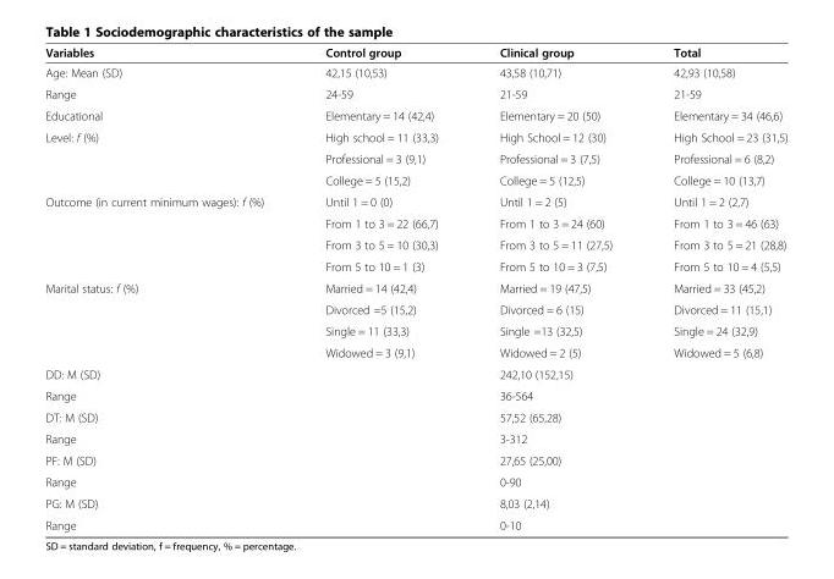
<table><thead><tr><td>Variables</td><td>Control group</td><td>Clinical group</td><td>Total</td></tr></thead><tbody><tr><td>Age: Mean (SD)</td><td>42,15 (10,53)</td><td>43,58 (10,71)</td><td>42,93 (10,58)</td></tr><tr><td>Range</td><td>24-59</td><td>21-59</td><td>21-59</td></tr><tr><td>Educational</td><td>Elementary = 14 (42,4)</td><td>Elementary = 20 (50)</td><td>Elementary = 34 (46,6)</td></tr><tr><td rowspan="3">Level: f (%)</td><td>High school = 11 (33,3)</td><td>High School = 12 (30)</td><td>High School = 23 (31,5)</td></tr><tr><td>Professional = 3 (9,1)</td><td>Professional = 3 (7,5)</td><td>Professional = 6 (8,2)</td></tr><tr><td>College = 5 (15,2)</td><td>College = 5 (12,5)</td><td>College = 10 (13,7)</td></tr><tr><td rowspan="4">Outcome (in current minimum wages): f (%)</td><td>Until 1 = 0 (0)</td><td>Until 1 = 2 (5)</td><td>Until 1 = 2 (2,7)</td></tr><tr><td>From 1 to 3 = 22 (66,7)</td><td>From 1 to 3 = 24 (60)</td><td>From 1 to 3 = 46 (63)</td></tr><tr><td>From 3 to 5 = 10 (30,3)</td><td>From 3 to 5 = 11 (27,5)</td><td>From 3 to 5 = 21 (28,8)</td></tr><tr><td>From 5 to 10 = 1 (3)</td><td>From 5 to 10 = 3 (7,5)</td><td>From 5 to 10 = 4 (5,5)</td></tr><tr><td rowspan="4">Marital status: f (%)</td><td>Married = 14 (42,4)</td><td>Married = 19 (47,5)</td><td>Married = 33 (45,2)</td></tr><tr><td>Divorced =5 (15,2)</td><td>Divorced = 6 (15)</td><td>Divorced = 11 (15,1)</td></tr><tr><td>Single = 11 (33,3)</td><td>Single =13 (32,5)</td><td>Single = 24 (32,9)</td></tr><tr><td>Widowed = 3 (9,1)</td><td>Widowed = 2 (5)</td><td>Widowed = 5 (6,8)</td></tr><tr><td>DD: M (SD)</td><td></td><td>242,10 (152,15)</td><td></td></tr><tr><td>Range</td><td></td><td>36-564</td><td></td></tr><tr><td>DT: M (SD)</td><td></td><td>57,52 (65,28)</td><td></td></tr><tr><td>Range</td><td></td><td>3-312</td><td></td></tr><tr><td>PF: M (SD)</td><td></td><td>27,65 (25,00)</td><td></td></tr><tr><td>Range</td><td></td><td>0-90</td><td></td></tr><tr><td>PG: M (SD)</td><td></td><td>8,03 (2,14)</td><td></td></tr><tr><td>Range</td><td></td><td>0-10</td><td></td></tr></tbody></table>